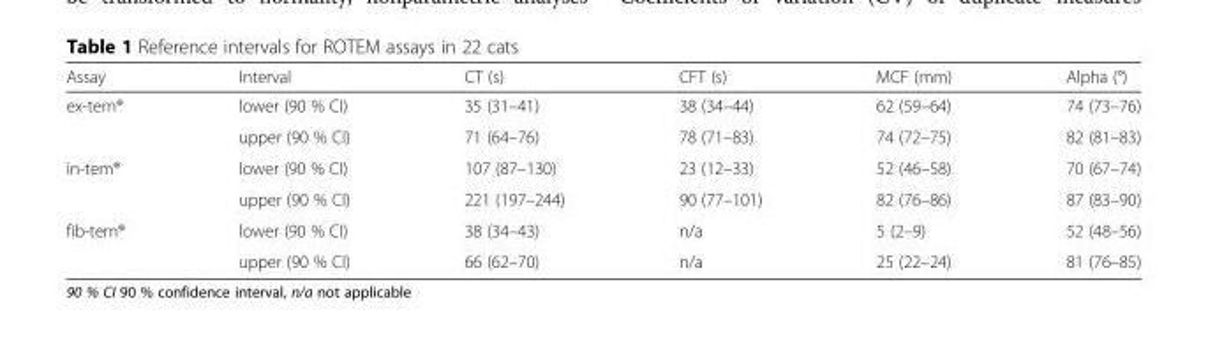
<table><thead><tr><td>Assay</td><td>Interval</td><td>CT (s)</td><td>CFT (s)</td><td>MCF (mm)</td><td>Alpha (°)</td></tr></thead><tbody><tr><td rowspan="2">ex-tem®</td><td>lower (90 % CI)</td><td>35 (31–41)</td><td>38 (34–44)</td><td>62 (59–64)</td><td>74 (73–76)</td></tr><tr><td>upper (90 % CI)</td><td>71 (64–76)</td><td>78 (71–83)</td><td>74 (72–75)</td><td>82 (81–83)</td></tr><tr><td rowspan="2">in-tem®</td><td>lower (90 % CI)</td><td>107 (87–130)</td><td>23 (12–33)</td><td>52 (46–58)</td><td>70 (67–74)</td></tr><tr><td>upper (90 % CI)</td><td>221 (197–244)</td><td>90 (77–101)</td><td>82 (76–86)</td><td>87 (83–90)</td></tr><tr><td rowspan="2">fib-tem®</td><td>lower (90 % CI)</td><td>38 (34–43)</td><td>n/a</td><td>5 (2–9)</td><td>52 (48–56)</td></tr><tr><td>upper (90 % CI)</td><td>66 (62–70)</td><td>n/a</td><td>25 (22–24)</td><td>81 (76–85)</td></tr></tbody></table>